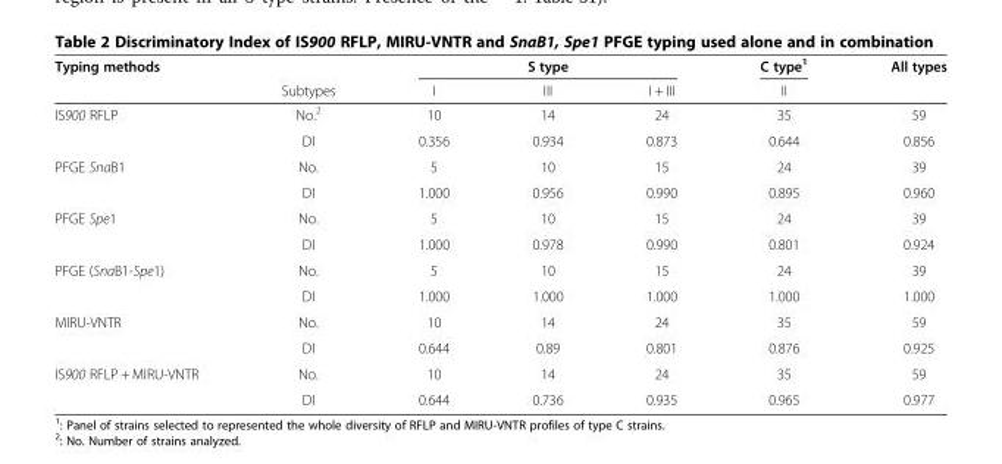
<table><thead><tr><td rowspan="2">Typing methods</td><td rowspan="2">Subtypes</td><td colspan="3">S type</td><td rowspan="2">C type<sup>1</sup> II</td><td rowspan="2">All types</td></tr><tr><td>I</td><td>III</td><td>I + III</td></tr></thead><tbody><tr><td rowspan="2">IS900 RFLP</td><td>No.<sup>2</sup></td><td>10</td><td>14</td><td>24</td><td>35</td><td>59</td></tr><tr><td>DI</td><td>0.356</td><td>0.934</td><td>0.873</td><td>0.644</td><td>0.856</td></tr><tr><td rowspan="2">PFGE SnaB1</td><td>No.</td><td>5</td><td>10</td><td>15</td><td>24</td><td>39</td></tr><tr><td>DI</td><td>1.000</td><td>0.956</td><td>0.990</td><td>0.895</td><td>0.960</td></tr><tr><td rowspan="2">PFGE Spe1</td><td>No.</td><td>5</td><td>10</td><td>15</td><td>24</td><td>39</td></tr><tr><td>DI</td><td>1.000</td><td>0.978</td><td>0.990</td><td>0.801</td><td>0.924</td></tr><tr><td rowspan="2">PFGE (SnaB1-Spe1)</td><td>No.</td><td>5</td><td>10</td><td>15</td><td>24</td><td>39</td></tr><tr><td>DI</td><td>1.000</td><td>1.000</td><td>1.000</td><td>1.000</td><td>1.000</td></tr><tr><td rowspan="2">MIRU-VNTR</td><td>No.</td><td>10</td><td>14</td><td>24</td><td>35</td><td>59</td></tr><tr><td>DI</td><td>0.644</td><td>0.89</td><td>0.801</td><td>0.876</td><td>0.925</td></tr><tr><td rowspan="2">IS900 RFLP + MIRU-VNTR</td><td>No.</td><td>10</td><td>14</td><td>24</td><td>35</td><td>59</td></tr><tr><td>DI</td><td>0.644</td><td>0.736</td><td>0.935</td><td>0.965</td><td>0.977</td></tr></tbody></table>